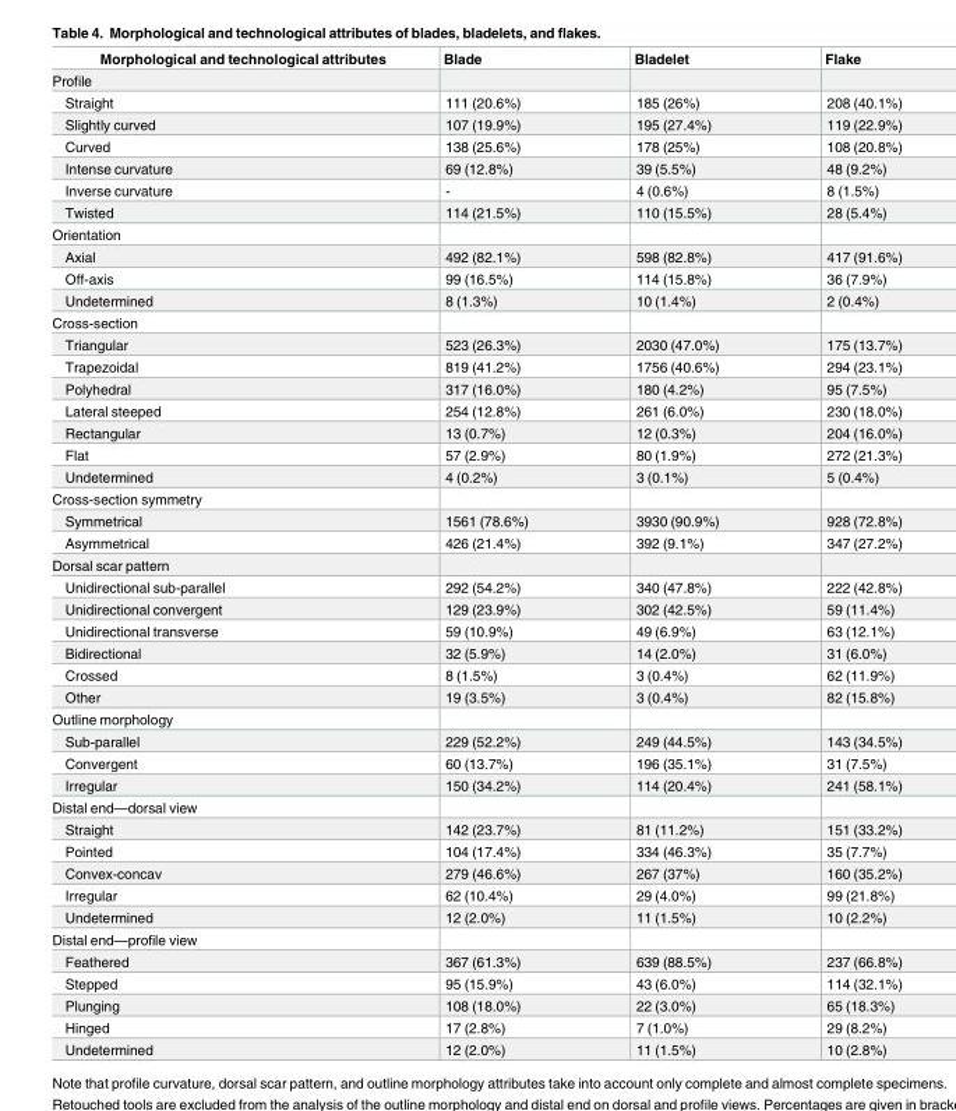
<table><thead><tr><td>Morphological and technological attributes</td><td>Blade</td><td>Bladelet</td><td>Flake</td></tr></thead><tbody><tr><td colspan="4">Profile</td></tr><tr><td>Straight</td><td>111 (20.6%)</td><td>185 (26%)</td><td>208 (40.1%)</td></tr><tr><td>Slightly curved</td><td>107 (19.9%)</td><td>195 (27.4%)</td><td>119 (22.9%)</td></tr><tr><td>Curved</td><td>138 (25.6%)</td><td>178 (25%)</td><td>108 (20.8%)</td></tr><tr><td>Intense curvature</td><td>69 (12.8%)</td><td>39 (5.5%)</td><td>48 (9.2%)</td></tr><tr><td>Inverse curvature</td><td>-</td><td>4 (0.6%)</td><td>8 (1.5%)</td></tr><tr><td>Twisted</td><td>114 (21.5%)</td><td>110 (15.5%)</td><td>28 (5.4%)</td></tr><tr><td colspan="4">Orientation</td></tr><tr><td>Axial</td><td>492 (82.1%)</td><td>598 (82.8%)</td><td>417 (91.6%)</td></tr><tr><td>Off-axis</td><td>99 (16.5%)</td><td>114 (15.8%)</td><td>36 (7.9%)</td></tr><tr><td>Undetermined</td><td>8 (1.3%)</td><td>10 (1.4%)</td><td>2 (0.4%)</td></tr><tr><td colspan="4">Cross-section</td></tr><tr><td>Triangular</td><td>523 (26.3%)</td><td>2030 (47.0%)</td><td>175 (13.7%)</td></tr><tr><td>Trapezoidal</td><td>819 (41.2%)</td><td>1756 (40.6%)</td><td>294 (23.1%)</td></tr><tr><td>Polyhedral</td><td>317 (16.0%)</td><td>180 (4.2%)</td><td>95 (7.5%)</td></tr><tr><td>Lateral steeped</td><td>254 (12.8%)</td><td>261 (6.0%)</td><td>230 (18.0%)</td></tr><tr><td>Rectangular</td><td>13 (0.7%)</td><td>12 (0.3%)</td><td>204 (16.0%)</td></tr><tr><td>Flat</td><td>57 (2.9%)</td><td>80 (1.9%)</td><td>272 (21.3%)</td></tr><tr><td>Undetermined</td><td>4 (0.2%)</td><td>3 (0.1%)</td><td>5 (0.4%)</td></tr><tr><td colspan="4">Cross-section symmetry</td></tr><tr><td>Symmetrical</td><td>1561 (78.6%)</td><td>3930 (90.9%)</td><td>928 (72.8%)</td></tr><tr><td>Asymmetrical</td><td>426 (21.4%)</td><td>392 (9.1%)</td><td>347 (27.2%)</td></tr><tr><td colspan="4">Dorsal scar pattern</td></tr><tr><td>Unidirectional sub-parallel</td><td>292 (54.2%)</td><td>340 (47.8%)</td><td>222 (42.8%)</td></tr><tr><td>Unidirectional convergent</td><td>129 (23.9%)</td><td>302 (42.5%)</td><td>59 (11.4%)</td></tr><tr><td>Unidirectional transverse</td><td>59 (10.9%)</td><td>49 (6.9%)</td><td>63 (12.1%)</td></tr><tr><td>Bidirectional</td><td>32 (5.9%)</td><td>14 (2.0%)</td><td>31 (6.0%)</td></tr><tr><td>Crossed</td><td>8 (1.5%)</td><td>3 (0.4%)</td><td>62 (11.9%)</td></tr><tr><td>Other</td><td>19 (3.5%)</td><td>3 (0.4%)</td><td>82 (15.8%)</td></tr><tr><td colspan="4">Outline morphology</td></tr><tr><td>Sub-parallel</td><td>229 (52.2%)</td><td>249 (44.5%)</td><td>143 (34.5%)</td></tr><tr><td>Convergent</td><td>60 (13.7%)</td><td>196 (35.1%)</td><td>31 (7.5%)</td></tr><tr><td>Irregular</td><td>150 (34.2%)</td><td>114 (20.4%)</td><td>241 (58.1%)</td></tr><tr><td colspan="4">Distal end—dorsal view</td></tr><tr><td>Straight</td><td>142 (23.7%)</td><td>81 (11.2%)</td><td>151 (33.2%)</td></tr><tr><td>Pointed</td><td>104 (17.4%)</td><td>334 (46.3%)</td><td>35 (7.7%)</td></tr><tr><td>Convex-concav</td><td>279 (46.6%)</td><td>267 (37%)</td><td>160 (35.2%)</td></tr><tr><td>Irregular</td><td>62 (10.4%)</td><td>29 (4.0%)</td><td>99 (21.8%)</td></tr><tr><td>Undetermined</td><td>12 (2.0%)</td><td>11 (1.5%)</td><td>10 (2.2%)</td></tr><tr><td colspan="4">Distal end—profile view</td></tr><tr><td>Feathered</td><td>367 (61.3%)</td><td>639 (88.5%)</td><td>237 (66.8%)</td></tr><tr><td>Stepped</td><td>95 (15.9%)</td><td>43 (6.0%)</td><td>114 (32.1%)</td></tr><tr><td>Plunging</td><td>108 (18.0%)</td><td>22 (3.0%)</td><td>65 (18.3%)</td></tr><tr><td>Hinged</td><td>17 (2.8%)</td><td>7 (1.0%)</td><td>29 (8.2%)</td></tr><tr><td>Undetermined</td><td>12 (2.0%)</td><td>11 (1.5%)</td><td>10 (2.8%)</td></tr></tbody></table>